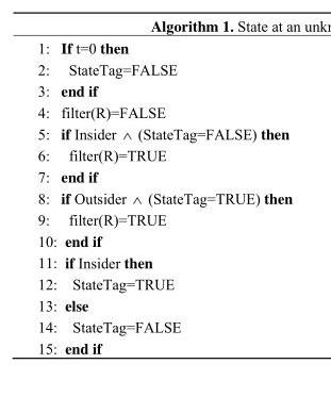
<table><tbody><tr><td>1:</td><td>If t=0 then</td></tr><tr><td>2:</td><td>StateTag=FALSE</td></tr><tr><td>3:</td><td>end if</td></tr><tr><td>4:</td><td>filter(R)=FALSE</td></tr><tr><td>5:</td><td>if Insider ∧ (StateTag=FALSE) then</td></tr><tr><td>6:</td><td>filter(R)=TRUE</td></tr><tr><td>7:</td><td>end if</td></tr><tr><td>8:</td><td>if Outsider ∧ (StateTag=TRUE) then</td></tr><tr><td>9:</td><td>filter(R)=TRUE</td></tr><tr><td>10:</td><td>end if</td></tr><tr><td>11:</td><td>if Insider then</td></tr><tr><td>12:</td><td>StateTag=TRUE</td></tr><tr><td>13:</td><td>else</td></tr><tr><td>14:</td><td>StateTag=FALSE</td></tr><tr><td>15:</td><td>end if</td></tr></tbody></table>